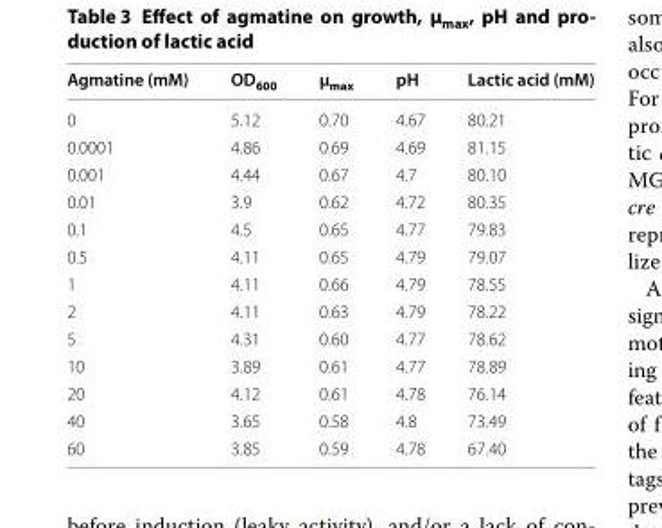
<table><thead><tr><td>Agmatine (mM)</td><td>OD<sub>600</sub></td><td>μ<sub>max</sub></td><td>pH</td><td>Lactic acid (mM)</td></tr></thead><tbody><tr><td>0</td><td>5.12</td><td>0.70</td><td>4.67</td><td>80.21</td></tr><tr><td>0.0001</td><td>4.86</td><td>0.69</td><td>4.69</td><td>81.15</td></tr><tr><td>0.001</td><td>4.44</td><td>0.67</td><td>4.7</td><td>80.10</td></tr><tr><td>0.01</td><td>3.9</td><td>0.62</td><td>4.72</td><td>80.35</td></tr><tr><td>0.1</td><td>4.5</td><td>0.65</td><td>4.77</td><td>79.83</td></tr><tr><td>0.5</td><td>4.11</td><td>0.65</td><td>4.79</td><td>79.07</td></tr><tr><td>1</td><td>4.11</td><td>0.66</td><td>4.79</td><td>78.55</td></tr><tr><td>2</td><td>4.11</td><td>0.63</td><td>4.79</td><td>78.22</td></tr><tr><td>5</td><td>4.31</td><td>0.60</td><td>4.77</td><td>78.62</td></tr><tr><td>10</td><td>3.89</td><td>0.61</td><td>4.77</td><td>78.89</td></tr><tr><td>20</td><td>4.12</td><td>0.61</td><td>4.78</td><td>76.14</td></tr><tr><td>40</td><td>3.65</td><td>0.58</td><td>4.8</td><td>73.49</td></tr><tr><td>60</td><td>3.85</td><td>0.59</td><td>4.78</td><td>67.40</td></tr></tbody></table>